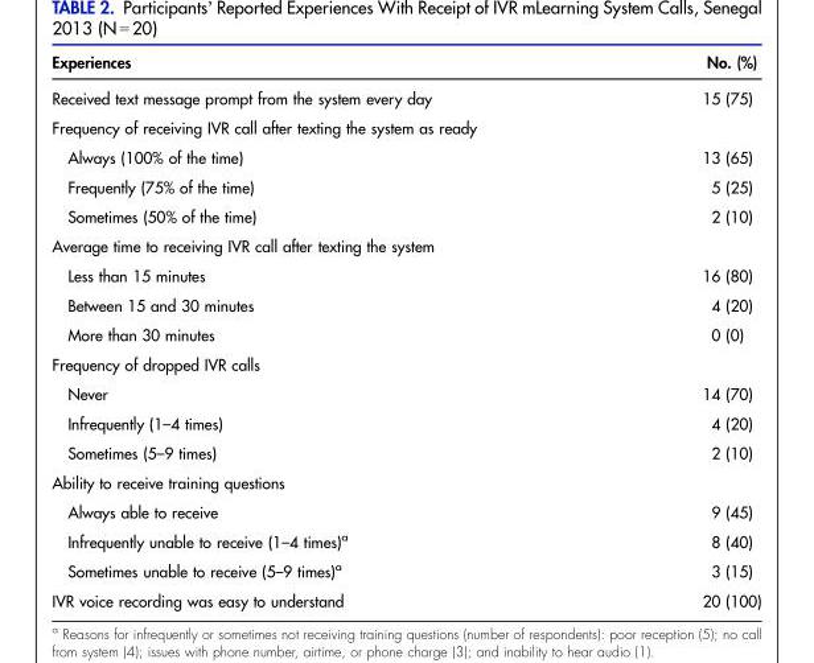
<table><thead><tr><td>Experiences</td><td>No. (%)</td></tr></thead><tbody><tr><td>Received text message prompt from the system every day</td><td>15 (75)</td></tr><tr><td colspan="2">Frequency of receiving IVR call after texting the system as ready</td></tr><tr><td>Always (100% of the time)</td><td>13 (65)</td></tr><tr><td>Frequently (75% of the time)</td><td>5 (25)</td></tr><tr><td>Sometimes (50% of the time)</td><td>2 (10)</td></tr><tr><td colspan="2">Average time to receiving IVR call after texting the system</td></tr><tr><td>Less than 15 minutes</td><td>16 (80)</td></tr><tr><td>Between 15 and 30 minutes</td><td>4 (20)</td></tr><tr><td>More than 30 minutes</td><td>0 (0)</td></tr><tr><td colspan="2">Frequency of dropped IVR calls</td></tr><tr><td>Never</td><td>14 (70)</td></tr><tr><td>Infrequently (1–4 times)</td><td>4 (20)</td></tr><tr><td>Sometimes (5–9 times)</td><td>2 (10)</td></tr><tr><td colspan="2">Ability to receive training questions</td></tr><tr><td>Always able to receive</td><td>9 (45)</td></tr><tr><td>Infrequently unable to receive (1–4 times)<sup>a</sup></td><td>8 (40)</td></tr><tr><td>Sometimes unable to receive (5–9 times)<sup>a</sup></td><td>3 (15)</td></tr><tr><td>IVR voice recording was easy to understand</td><td>20 (100)</td></tr></tbody></table>